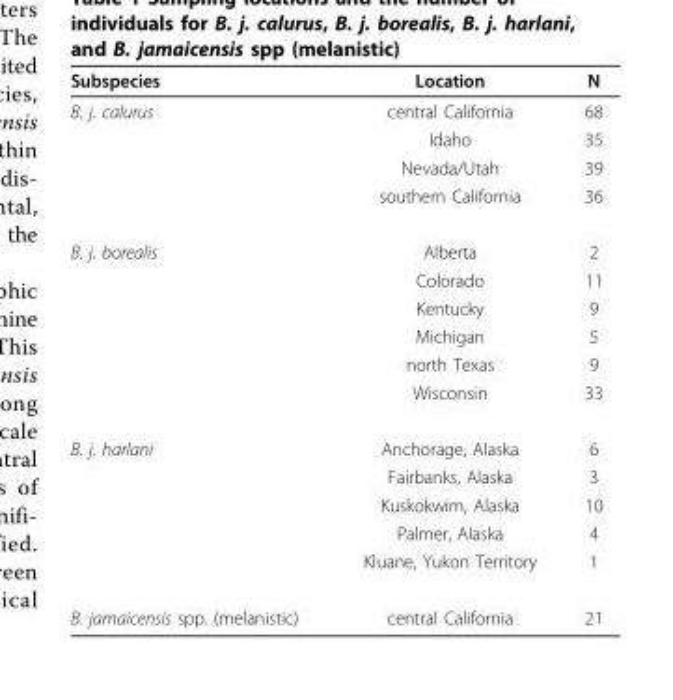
<table><thead><tr><td>Subspecies</td><td>Location</td><td>N</td></tr></thead><tbody><tr><td rowspan="4">B. j. calurus</td><td>central California</td><td>68</td></tr><tr><td>Idaho</td><td>35</td></tr><tr><td>Nevada/Utah</td><td>39</td></tr><tr><td>southern California</td><td>36</td></tr><tr><td rowspan="6">B. j. borealis</td><td>Alberta</td><td>2</td></tr><tr><td>Colorado</td><td>11</td></tr><tr><td>Kentucky</td><td>9</td></tr><tr><td>Michigan</td><td>5</td></tr><tr><td>north Texas</td><td>9</td></tr><tr><td>Wisconsin</td><td>33</td></tr><tr><td rowspan="5">B. j. harlani</td><td>Anchorage, Alaska</td><td>6</td></tr><tr><td>Fairbanks, Alaska</td><td>3</td></tr><tr><td>Kuskokwim, Alaska</td><td>10</td></tr><tr><td>Palmer, Alaska</td><td>4</td></tr><tr><td>Kluane, Yukon Territory</td><td>1</td></tr><tr><td>B. jamaicensis spp. (melanistic)</td><td>central California</td><td>21</td></tr></tbody></table>